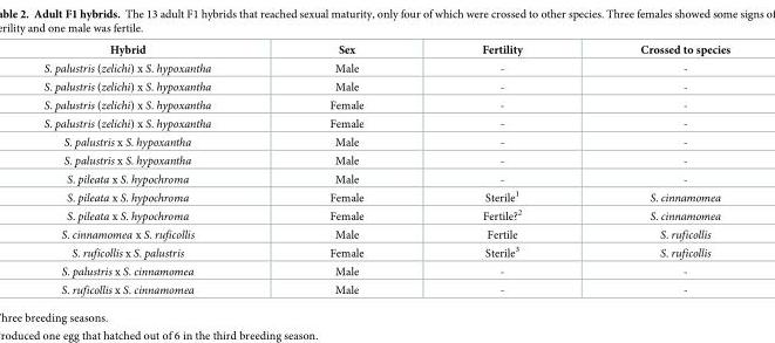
<table><thead><tr><td>Hybrid</td><td>Sex</td><td>Fertility</td><td>Crossed to species</td></tr></thead><tbody><tr><td>S. palustris (zelichi) x S. hypoxantha</td><td>Male</td><td>-</td><td>-</td></tr><tr><td>S. palustris (zelichi) x S. hypoxantha</td><td>Male</td><td>-</td><td>-</td></tr><tr><td>S. palustris (zelichi) x S. hypoxantha</td><td>Female</td><td>-</td><td>-</td></tr><tr><td>S. palustris (zelichi) x S. hypoxantha</td><td>Female</td><td>-</td><td>-</td></tr><tr><td>S. palustris x S. hypoxantha</td><td>Male</td><td>-</td><td>-</td></tr><tr><td>S. palustris x S. hypoxantha</td><td>Male</td><td>-</td><td>-</td></tr><tr><td>S. pileata x S. hypochroma</td><td>Male</td><td>-</td><td>-</td></tr><tr><td>S. pileata x S. hypochroma</td><td>Female</td><td>Sterile<sup>1</sup></td><td>S. cinnamomea</td></tr><tr><td>S. pileata x S. hypochroma</td><td>Female</td><td>Fertile?<sup>2</sup></td><td>S. cinnamomea</td></tr><tr><td>S. cinnamomea x S. ruficollis</td><td>Male</td><td>Fertile</td><td>S. ruficollis</td></tr><tr><td>S. ruficollis x S. palustris</td><td>Female</td><td>Sterile<sup>3</sup></td><td>S. ruficollis</td></tr><tr><td>S. palustris x S. cinnamomea</td><td>Male</td><td>-</td><td>-</td></tr><tr><td>S. ruficollis x S. cinnamomea</td><td>Male</td><td>-</td><td>-</td></tr></tbody></table>